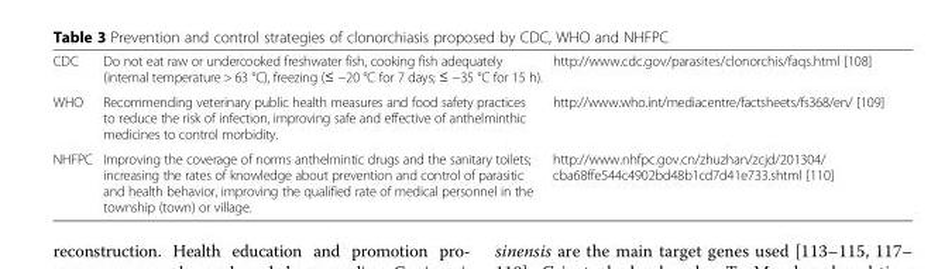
<table><tbody><tr><td>CDC</td><td>Do not eat raw or undercooked freshwater fish, cooking fish adequately (internal temperature &gt; 63 °C), freezing (≤ −20 °C for 7 days; ≤ −35 °C for 15 h).</td><td>http://www.cdc.gov/parasites/clonorchis/faqs.html [108]</td></tr><tr><td>WHO</td><td>Recommending veterinary public health measures and food safety practices to reduce the risk of infection, improving safe and effective of anthelminthic medicines to control morbidity.</td><td>http://www.who.int/mediacentre/factsheets/fs368/en/ [109]</td></tr><tr><td>NHFPC</td><td>Improving the coverage of norms anthelmintic drugs and the sanitary toilets; increasing the rates of knowledge about prevention and control of parasitic and health behavior, improving the qualified rate of medical personnel in the township (town) or village.</td><td>http://www.nhfpc.gov.cn/zhuzhan/zcjd/201304/ cba68ffe544c4902bd48b1cd7d41e733.shtml [110]</td></tr></tbody></table>